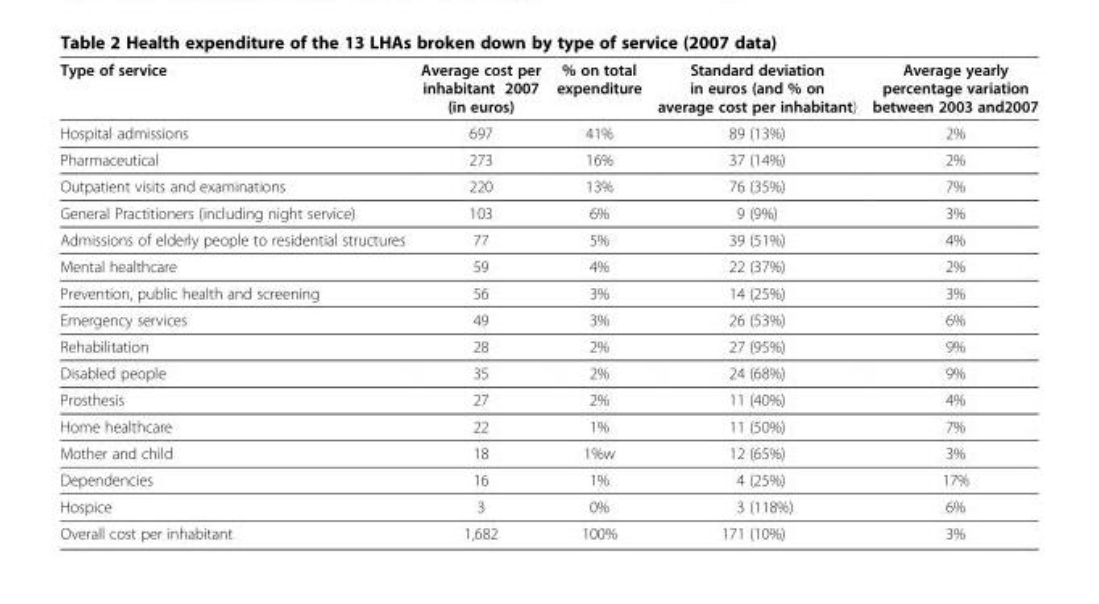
<table><thead><tr><td>Type of service</td><td>Average cost per inhabitant 2007 (in euros)</td><td>% on total expenditure</td><td>Standard deviation in euros (and % on average cost per inhabitant)</td><td>Average yearly percentage variation between 2003 and2007</td></tr></thead><tbody><tr><td>Hospital admissions</td><td>697</td><td>41%</td><td>89 (13%)</td><td>2%</td></tr><tr><td>Pharmaceutical</td><td>273</td><td>16%</td><td>37 (14%)</td><td>2%</td></tr><tr><td>Outpatient visits and examinations</td><td>220</td><td>13%</td><td>76 (35%)</td><td>7%</td></tr><tr><td>General Practitioners (including night service)</td><td>103</td><td>6%</td><td>9 (9%)</td><td>3%</td></tr><tr><td>Admissions of elderly people to residential structures</td><td>77</td><td>5%</td><td>39 (51%)</td><td>4%</td></tr><tr><td>Mental healthcare</td><td>59</td><td>4%</td><td>22 (37%)</td><td>2%</td></tr><tr><td>Prevention, public health and screening</td><td>56</td><td>3%</td><td>14 (25%)</td><td>3%</td></tr><tr><td>Emergency services</td><td>49</td><td>3%</td><td>26 (53%)</td><td>6%</td></tr><tr><td>Rehabilitation</td><td>28</td><td>2%</td><td>27 (95%)</td><td>9%</td></tr><tr><td>Disabled people</td><td>35</td><td>2%</td><td>24 (68%)</td><td>9%</td></tr><tr><td>Prosthesis</td><td>27</td><td>2%</td><td>11 (40%)</td><td>4%</td></tr><tr><td>Home healthcare</td><td>22</td><td>1%</td><td>11 (50%)</td><td>7%</td></tr><tr><td>Mother and child</td><td>18</td><td>1%w</td><td>12 (65%)</td><td>3%</td></tr><tr><td>Dependencies</td><td>16</td><td>1%</td><td>4 (25%)</td><td>17%</td></tr><tr><td>Hospice</td><td>3</td><td>0%</td><td>3 (118%)</td><td>6%</td></tr><tr><td>Overall cost per inhabitant</td><td>1,682</td><td>100%</td><td>171 (10%)</td><td>3%</td></tr></tbody></table>